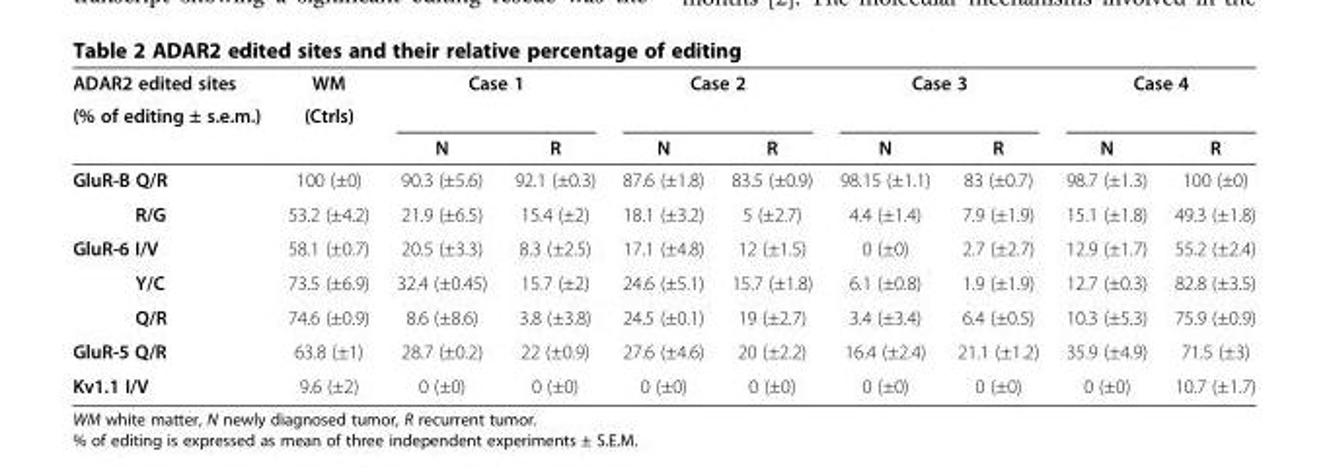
<table><thead><tr><td rowspan="3">ADAR2 edited sites (% of editing ± s.e.m.)</td><td rowspan="3">WM (Ctrls)</td><td rowspan="2" colspan="2">Case 1</td><td rowspan="2" colspan="2">Case 2</td><td rowspan="2" colspan="2">Case 3</td><td rowspan="2" colspan="2">Case 4</td></tr><tr></tr><tr><td>N</td><td>R</td><td>N</td><td>R</td><td>N</td><td>R</td><td>N</td><td>R</td></tr></thead><tbody><tr><td>GluR-B Q/R</td><td>100 (±0)</td><td>90.3 (±5.6)</td><td>92.1 (±0.3)</td><td>87.6 (±1.8)</td><td>83.5 (±0.9)</td><td>98.15 (±1.1)</td><td>83 (±0.7)</td><td>98.7 (±1.3)</td><td>100 (±0)</td></tr><tr><td>R/G</td><td>53.2 (±4.2)</td><td>21.9 (±6.5)</td><td>15.4 (±2)</td><td>18.1 (±3.2)</td><td>5 (±2.7)</td><td>4.4 (±1.4)</td><td>7.9 (±1.9)</td><td>15.1 (±1.8)</td><td>49.3 (±1.8)</td></tr><tr><td>GluR-6 I/V</td><td>58.1 (±0.7)</td><td>20.5 (±3.3)</td><td>8.3 (±2.5)</td><td>17.1 (±4.8)</td><td>12 (±1.5)</td><td>0 (±0)</td><td>2.7 (±2.7)</td><td>12.9 (±1.7)</td><td>55.2 (±2.4)</td></tr><tr><td>Y/C</td><td>73.5 (±6.9)</td><td>32.4 (±0.45)</td><td>15.7 (±2)</td><td>24.6 (±5.1)</td><td>15.7 (±1.8)</td><td>6.1 (±0.8)</td><td>1.9 (±1.9)</td><td>12.7 (±0.3)</td><td>82.8 (±3.5)</td></tr><tr><td>Q/R</td><td>74.6 (±0.9)</td><td>8.6 (±8.6)</td><td>3.8 (±3.8)</td><td>24.5 (±0.1)</td><td>19 (±2.7)</td><td>3.4 (±3.4)</td><td>6.4 (±0.5)</td><td>10.3 (±5.3)</td><td>75.9 (±0.9)</td></tr><tr><td>GluR-5 Q/R</td><td>63.8 (±1)</td><td>28.7 (±0.2)</td><td>22 (±0.9)</td><td>27.6 (±4.6)</td><td>20 (±2.2)</td><td>16.4 (±2.4)</td><td>21.1 (±1.2)</td><td>35.9 (±4.9)</td><td>71.5 (±3)</td></tr><tr><td>Kv1.1 I/V</td><td>9.6 (±2)</td><td>0 (±0)</td><td>0 (±0)</td><td>0 (±0)</td><td>0 (±0)</td><td>0 (±0)</td><td>0 (±0)</td><td>0 (±0)</td><td>10.7 (±1.7)</td></tr></tbody></table>